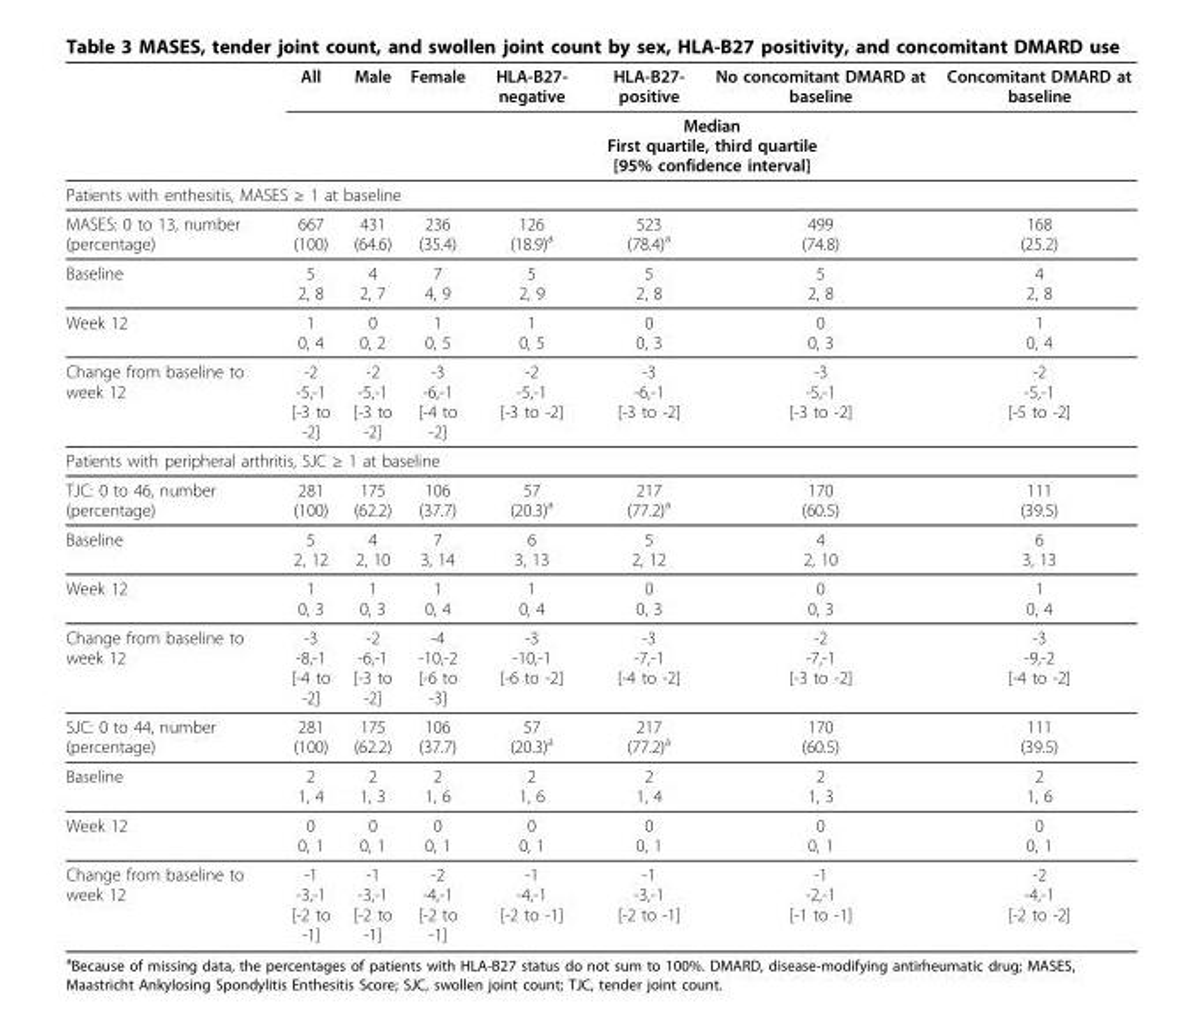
<table><thead><tr><td rowspan="2"></td><td>All</td><td>Male</td><td>Female</td><td>HLA-B27- negative</td><td>HLA-B27- positive</td><td>No concomitant DMARD at baseline</td><td>Concomitant DMARD at baseline</td></tr><tr><td colspan="7">Median First quartile, third quartile [95% confidence interval]</td></tr></thead><tbody><tr><td colspan="8">Patients with enthesitis, MASES ≥ 1 at baseline</td></tr><tr><td>MASES: 0 to 13, number (percentage)</td><td>667 (100)</td><td>431 (64.6)</td><td>236 (35.4)</td><td>126 (18.9)<sup>a</sup></td><td>523 (78.4)<sup>a</sup></td><td>499 (74.8)</td><td>168 (25.2)</td></tr><tr><td>Baseline</td><td>5 2, 8</td><td>4 2, 7</td><td>7 4, 9</td><td>5 2, 9</td><td>5 2, 8</td><td>5 2, 8</td><td>4 2, 8</td></tr><tr><td>Week 12</td><td>1 0, 4</td><td>0 0, 2</td><td>1 0, 5</td><td>1 0, 5</td><td>0 0, 3</td><td>0 0, 3</td><td>1 0, 4</td></tr><tr><td>Change from baseline to week 12</td><td>-2 -5,-1 [-3 to -2]</td><td>-2 -5,-1 [-3 to -2]</td><td>-3 -6,-1 [-4 to -2]</td><td>-2 -5,-1 [-3 to -2]</td><td>-3 -6,-1 [-3 to -2]</td><td>-3 -5,-1 [-3 to -2]</td><td>-2 -5,-1 [-5 to -2]</td></tr><tr><td colspan="8">Patients with peripheral arthritis, SJC ≥ 1 at baseline</td></tr><tr><td>TJC: 0 to 46, number (percentage)</td><td>281 (100)</td><td>175 (62.2)</td><td>106 (37.7)</td><td>57 (20.3)<sup>a</sup></td><td>217 (77.2)<sup>a</sup></td><td>170 (60.5)</td><td>111 (39.5)</td></tr><tr><td>Baseline</td><td>5 2, 12</td><td>4 2, 10</td><td>7 3, 14</td><td>6 3, 13</td><td>5 2, 12</td><td>4 2, 10</td><td>6 3, 13</td></tr><tr><td>Week 12</td><td>1 0, 3</td><td>1 0, 3</td><td>1 0, 4</td><td>1 0, 4</td><td>0 0, 3</td><td>0 0, 3</td><td>1 0, 4</td></tr><tr><td>Change from baseline to week 12</td><td>-3 -8,-1 [-4 to -2]</td><td>-2 -6,-1 [-3 to -2]</td><td>-4 -10,-2 [-6 to -3]</td><td>-3 -10,-1 [-6 to -2]</td><td>-3 -7,-1 [-4 to -2]</td><td>-2 -7,-1 [-3 to -2]</td><td>-3 -9,-2 [-4 to -2]</td></tr><tr><td>SJC: 0 to 44, number (percentage)</td><td>281 (100)</td><td>175 (62.2)</td><td>106 (37.7)</td><td>57 (20.3)<sup>a</sup></td><td>217 (77.2)<sup>a</sup></td><td>170 (60.5)</td><td>111 (39.5)</td></tr><tr><td>Baseline</td><td>2 1, 4</td><td>2 1, 3</td><td>2 1, 6</td><td>2 1, 6</td><td>2 1, 4</td><td>2 1, 3</td><td>2 1, 6</td></tr><tr><td>Week 12</td><td>0 0, 1</td><td>0 0, 1</td><td>0 0, 1</td><td>0 0, 1</td><td>0 0, 1</td><td>0 0, 1</td><td>0 0, 1</td></tr><tr><td>Change from baseline to week 12</td><td>-1 -3,-1 [-2 to -1]</td><td>-1 -3,-1 [-2 to -1]</td><td>-2 -4,-1 [-2 to -1]</td><td>-1 -4,-1 [-2 to -1]</td><td>-1 -3,-1 [-2 to -1]</td><td>-1 -2,-1 [-1 to -1]</td><td>-2 -4,-1 [-2 to -2]</td></tr></tbody></table>